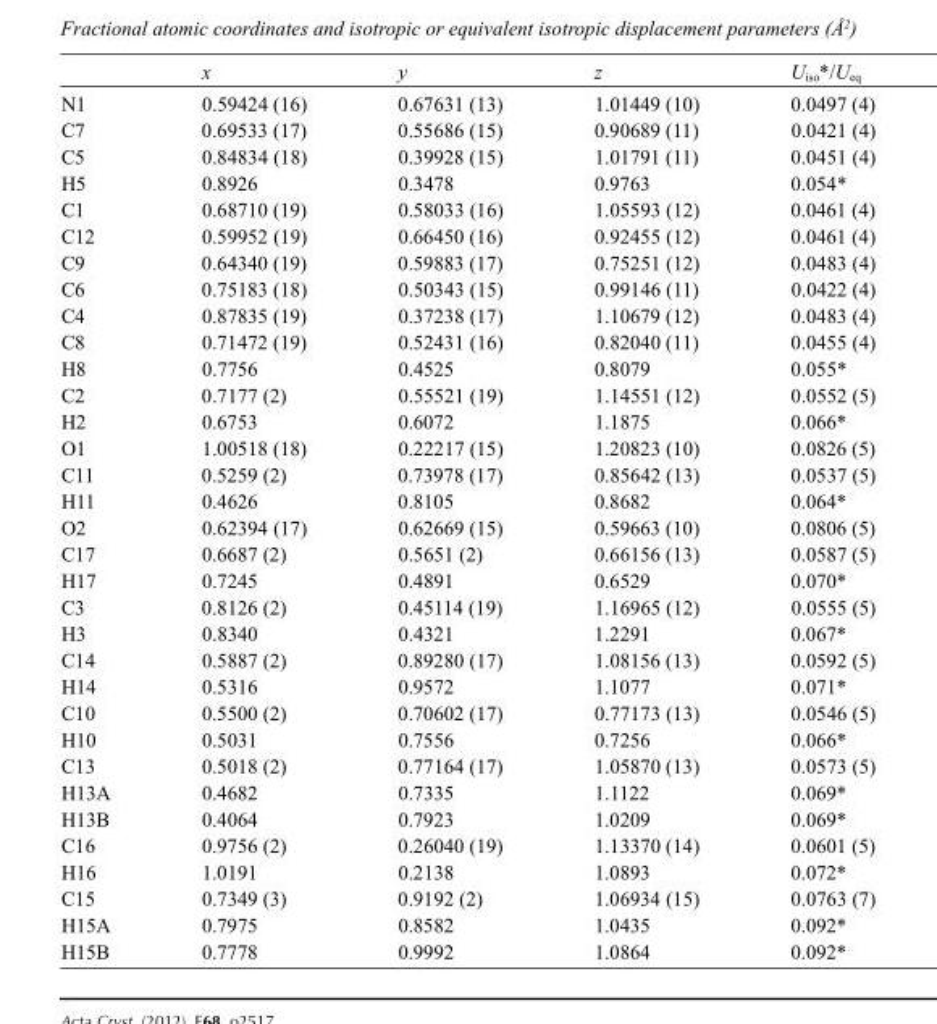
<table><thead><tr><td></td><td>x</td><td>y</td><td>z</td><td>U<sub>iso</sub>*/U<sub>eq</sub></td></tr></thead><tbody><tr><td>N1</td><td>0.59424 (16)</td><td>0.67631 (13)</td><td>1.01449 (10)</td><td>0.0497 (4)</td></tr><tr><td>C7</td><td>0.69533 (17)</td><td>0.55686 (15)</td><td>0.90689 (11)</td><td>0.0421 (4)</td></tr><tr><td>C5</td><td>0.84834 (18)</td><td>0.39928 (15)</td><td>1.01791 (11)</td><td>0.0451 (4)</td></tr><tr><td>H5</td><td>0.8926</td><td>0.3478</td><td>0.9763</td><td>0.054*</td></tr><tr><td>C1</td><td>0.68710 (19)</td><td>0.58033 (16)</td><td>1.05593 (12)</td><td>0.0461 (4)</td></tr><tr><td>C12</td><td>0.59952 (19)</td><td>0.66450 (16)</td><td>0.92455 (12)</td><td>0.0461 (4)</td></tr><tr><td>C9</td><td>0.64340 (19)</td><td>0.59883 (17)</td><td>0.75251 (12)</td><td>0.0483 (4)</td></tr><tr><td>C6</td><td>0.75183 (18)</td><td>0.50343 (15)</td><td>0.99146 (11)</td><td>0.0422 (4)</td></tr><tr><td>C4</td><td>0.87835 (19)</td><td>0.37238 (17)</td><td>1.10679 (12)</td><td>0.0483 (4)</td></tr><tr><td>C8</td><td>0.71472 (19)</td><td>0.52431 (16)</td><td>0.82040 (11)</td><td>0.0455 (4)</td></tr><tr><td>H8</td><td>0.7756</td><td>0.4525</td><td>0.8079</td><td>0.055*</td></tr><tr><td>C2</td><td>0.7177 (2)</td><td>0.55521 (19)</td><td>1.14551 (12)</td><td>0.0552 (5)</td></tr><tr><td>H2</td><td>0.6753</td><td>0.6072</td><td>1.1875</td><td>0.066*</td></tr><tr><td>O1</td><td>1.00518 (18)</td><td>0.22217 (15)</td><td>1.20823 (10)</td><td>0.0826 (5)</td></tr><tr><td>C11</td><td>0.5259 (2)</td><td>0.73978 (17)</td><td>0.85642 (13)</td><td>0.0537 (5)</td></tr><tr><td>H11</td><td>0.4626</td><td>0.8105</td><td>0.8682</td><td>0.064*</td></tr><tr><td>O2</td><td>0.62394 (17)</td><td>0.62669 (15)</td><td>0.59663 (10)</td><td>0.0806 (5)</td></tr><tr><td>C17</td><td>0.6687 (2)</td><td>0.5651 (2)</td><td>0.66156 (13)</td><td>0.0587 (5)</td></tr><tr><td>H17</td><td>0.7245</td><td>0.4891</td><td>0.6529</td><td>0.070*</td></tr><tr><td>C3</td><td>0.8126 (2)</td><td>0.45114 (19)</td><td>1.16965 (12)</td><td>0.0555 (5)</td></tr><tr><td>H3</td><td>0.8340</td><td>0.4321</td><td>1.2291</td><td>0.067*</td></tr><tr><td>C14</td><td>0.5887 (2)</td><td>0.89280 (17)</td><td>1.08156 (13)</td><td>0.0592 (5)</td></tr><tr><td>H14</td><td>0.5316</td><td>0.9572</td><td>1.1077</td><td>0.071*</td></tr><tr><td>C10</td><td>0.5500 (2)</td><td>0.70602 (17)</td><td>0.77173 (13)</td><td>0.0546 (5)</td></tr><tr><td>H10</td><td>0.5031</td><td>0.7556</td><td>0.7256</td><td>0.066*</td></tr><tr><td>C13</td><td>0.5018 (2)</td><td>0.77164 (17)</td><td>1.05870 (13)</td><td>0.0573 (5)</td></tr><tr><td>H13A</td><td>0.4682</td><td>0.7335</td><td>1.1122</td><td>0.069*</td></tr><tr><td>H13B</td><td>0.4064</td><td>0.7923</td><td>1.0209</td><td>0.069*</td></tr><tr><td>C16</td><td>0.9756 (2)</td><td>0.26040 (19)</td><td>1.13370 (14)</td><td>0.0601 (5)</td></tr><tr><td>H16</td><td>1.0191</td><td>0.2138</td><td>1.0893</td><td>0.072*</td></tr><tr><td>C15</td><td>0.7349 (3)</td><td>0.9192 (2)</td><td>1.06934 (15)</td><td>0.0763 (7)</td></tr><tr><td>H15A</td><td>0.7975</td><td>0.8582</td><td>1.0435</td><td>0.092*</td></tr><tr><td>H15B</td><td>0.7778</td><td>0.9992</td><td>1.0864</td><td>0.092*</td></tr></tbody></table>